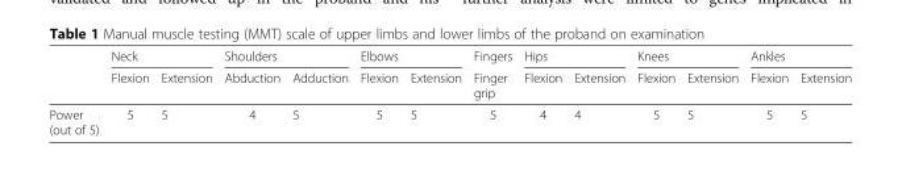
<table><thead><tr><td rowspan="2"></td><td colspan="2">Neck</td><td colspan="2">Shoulders</td><td colspan="2">Elbows</td><td rowspan="2">Fingers Finger grip</td><td colspan="2">Hips</td><td colspan="2">Knees</td><td colspan="2">Ankles</td></tr><tr><td>Flexion</td><td>Extension</td><td>Abduction</td><td>Adduction</td><td>Flexion</td><td>Extension</td><td>Flexion</td><td>Extension</td><td>Flexion</td><td>Extension</td><td>Flexion</td><td>Extension</td></tr></thead><tbody><tr><td>Power (out of 5)</td><td>5</td><td>5</td><td>4</td><td>5</td><td>5</td><td>5</td><td>5</td><td>4</td><td>4</td><td>5</td><td>5</td><td>5</td><td>5</td></tr></tbody></table>